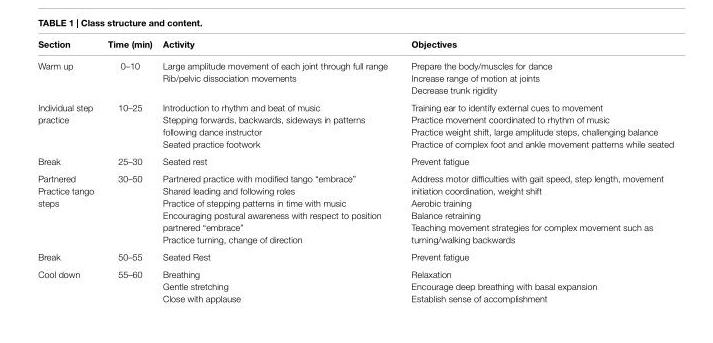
<table><thead><tr><td>section</td><td>Time (min)</td><td>activity</td><td>Objectives</td></tr></thead><tbody><tr><td>Warm up</td><td>0–10</td><td>Large amplitude movement of each joint through full range Rib/pelvic dissociation movements</td><td>Prepare the body/muscles for dance Increase range of motion at joints Decrease trunk rigidity</td></tr><tr><td>Individual step practice</td><td>10–25</td><td>Introduction to rhythm and beat of music Stepping forwards, backwards, sideways in patterns following dance instructor Seated practice footwork</td><td>Training ear to identify external cues to movement Practice movement coordinated to rhythm of music Practice weight shift, large amplitude steps, challenging balance Practice of complex foot and ankle movement patterns while seated</td></tr><tr><td>Break</td><td>25–30</td><td>Seated rest</td><td>Prevent fatigue</td></tr><tr><td>Partnered Practice tango steps</td><td>30–50</td><td>Partnered practice with modified tango “embrace” Shared leading and following roles Practice of stepping patterns in time with music Encouraging postural awareness with respect to position partnered “embrace” Practice turning, change of direction</td><td>Address motor difficulties with gait speed, step length, movement initiation coordination, weight shift Aerobic training Balance retraining Teaching movement strategies for complex movement such as turning/walking backwards</td></tr><tr><td>Break</td><td>50–55</td><td>Seated Rest</td><td>Prevent fatigue</td></tr><tr><td>Cool down</td><td>55–60</td><td>Breathing Gentle stretching Close with applause</td><td>Relaxation Encourage deep breathing with basal expansion Establish sense of accomplishment</td></tr></tbody></table>